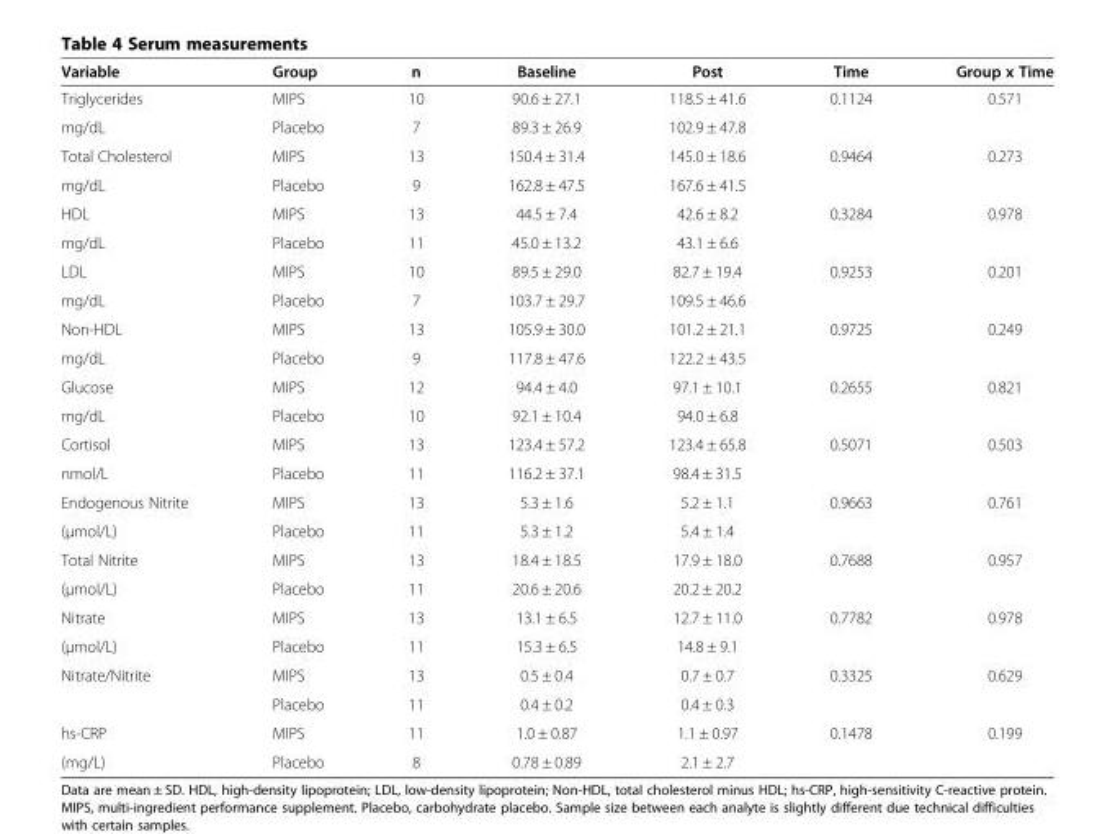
<table><thead><tr><td>Variable</td><td>Group</td><td>n</td><td>Baseline</td><td>Post</td><td>Time</td><td>Group x Time</td></tr></thead><tbody><tr><td>Triglycerides</td><td>MIPS</td><td>10</td><td>90.6 ± 27.1</td><td>118.5 ± 41.6</td><td>0.1124</td><td>0.571</td></tr><tr><td>mg/dL</td><td>Placebo</td><td>7</td><td>89.3 ± 26.9</td><td>102.9 ± 47.8</td><td></td><td></td></tr><tr><td>Total Cholesterol</td><td>MIPS</td><td>13</td><td>150.4 ± 31.4</td><td>145.0 ± 18.6</td><td>0.9464</td><td>0.273</td></tr><tr><td>mg/dL</td><td>Placebo</td><td>9</td><td>162.8 ± 47.5</td><td>167.6 ± 41.5</td><td></td><td></td></tr><tr><td>HDL</td><td>MIPS</td><td>13</td><td>44.5 ± 7.4</td><td>42.6 ± 8.2</td><td>0.3284</td><td>0.978</td></tr><tr><td>mg/dL</td><td>Placebo</td><td>11</td><td>45.0 ± 13.2</td><td>43.1 ± 6.6</td><td></td><td></td></tr><tr><td>LDL</td><td>MIPS</td><td>10</td><td>89.5 ± 29.0</td><td>82.7 ± 19.4</td><td>0.9253</td><td>0.201</td></tr><tr><td>mg/dL</td><td>Placebo</td><td>7</td><td>103.7 ± 29.7</td><td>109.5 ± 46.6</td><td></td><td></td></tr><tr><td>Non-HDL</td><td>MIPS</td><td>13</td><td>105.9 ± 30.0</td><td>101.2 ± 21.1</td><td>0.9725</td><td>0.249</td></tr><tr><td>mg/dL</td><td>Placebo</td><td>9</td><td>117.8 ± 47.6</td><td>122.2 ± 43.5</td><td></td><td></td></tr><tr><td>Glucose</td><td>MIPS</td><td>12</td><td>94.4 ± 4.0</td><td>97.1 ± 10.1</td><td>0.2655</td><td>0.821</td></tr><tr><td>mg/dL</td><td>Placebo</td><td>10</td><td>92.1 ± 10.4</td><td>94.0 ± 6.8</td><td></td><td></td></tr><tr><td>Cortisol</td><td>MIPS</td><td>13</td><td>123.4 ± 57.2</td><td>123.4 ± 65.8</td><td>0.5071</td><td>0.503</td></tr><tr><td>nmol/L</td><td>Placebo</td><td>11</td><td>116.2 ± 37.1</td><td>98.4 ± 31.5</td><td></td><td></td></tr><tr><td>Endogenous Nitrite</td><td>MIPS</td><td>13</td><td>5.3 ± 1.6</td><td>5.2 ± 1.1</td><td>0.9663</td><td>0.761</td></tr><tr><td>(μmol/L)</td><td>Placebo</td><td>11</td><td>5.3 ± 1.2</td><td>5.4 ± 1.4</td><td></td><td></td></tr><tr><td>Total Nitrite</td><td>MIPS</td><td>13</td><td>18.4 ± 18.5</td><td>17.9 ± 18.0</td><td>0.7688</td><td>0.957</td></tr><tr><td>(μmol/L)</td><td>Placebo</td><td>11</td><td>20.6 ± 20.6</td><td>20.2 ± 20.2</td><td></td><td></td></tr><tr><td>Nitrate</td><td>MIPS</td><td>13</td><td>13.1 ± 6.5</td><td>12.7 ± 11.0</td><td>0.7782</td><td>0.978</td></tr><tr><td>(μmol/L)</td><td>Placebo</td><td>11</td><td>15.3 ± 6.5</td><td>14.8 ± 9.1</td><td></td><td></td></tr><tr><td rowspan="2">Nitrate/Nitrite</td><td>MIPS</td><td>13</td><td>0.5 ± 0.4</td><td>0.7 ± 0.7</td><td>0.3325</td><td>0.629</td></tr><tr><td>Placebo</td><td>11</td><td>0.4 ± 0.2</td><td>0.4 ± 0.3</td><td></td><td></td></tr><tr><td>hs-CRP</td><td>MIPS</td><td>11</td><td>1.0 ± 0.87</td><td>1.1 ± 0.97</td><td>0.1478</td><td>0.199</td></tr><tr><td>(mg/L)</td><td>Placebo</td><td>8</td><td>0.78 ± 0.89</td><td>2.1 ± 2.7</td><td></td><td></td></tr></tbody></table>